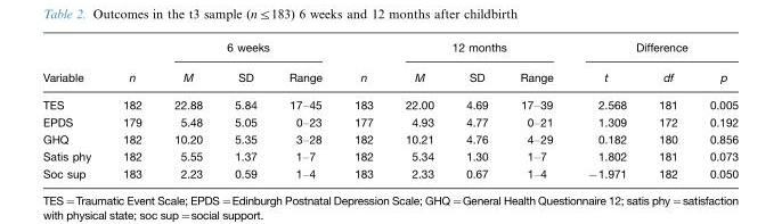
<table><thead><tr><td rowspan="2">Variable</td><td rowspan="2">n</td><td colspan="3">6 weeks</td><td rowspan="2">n</td><td colspan="3">12 months</td><td colspan="3">Difference</td></tr><tr><td>M</td><td>SD</td><td>Range</td><td>M</td><td>SD</td><td>Range</td><td>t</td><td>df</td><td>p</td></tr></thead><tbody><tr><td>TES</td><td>182</td><td>22.88</td><td>5.84</td><td>17–45</td><td>183</td><td>22.00</td><td>4.69</td><td>17–39</td><td>2.568</td><td>181</td><td>0.005</td></tr><tr><td>EPDS</td><td>179</td><td>5.48</td><td>5.05</td><td>0–23</td><td>177</td><td>4.93</td><td>4.77</td><td>0–21</td><td>1.309</td><td>172</td><td>0.192</td></tr><tr><td>GHQ</td><td>182</td><td>10.20</td><td>5.35</td><td>3–28</td><td>182</td><td>10.21</td><td>4.76</td><td>4–29</td><td>0.182</td><td>180</td><td>0.856</td></tr><tr><td>Satis phy</td><td>182</td><td>5.55</td><td>1.37</td><td>1–7</td><td>182</td><td>5.34</td><td>1.30</td><td>1–7</td><td>1.802</td><td>181</td><td>0.073</td></tr><tr><td>Soc sup</td><td>183</td><td>2.23</td><td>0.59</td><td>1–4</td><td>183</td><td>2.33</td><td>0.67</td><td>1–4</td><td>−1.971</td><td>182</td><td>0.050</td></tr></tbody></table>